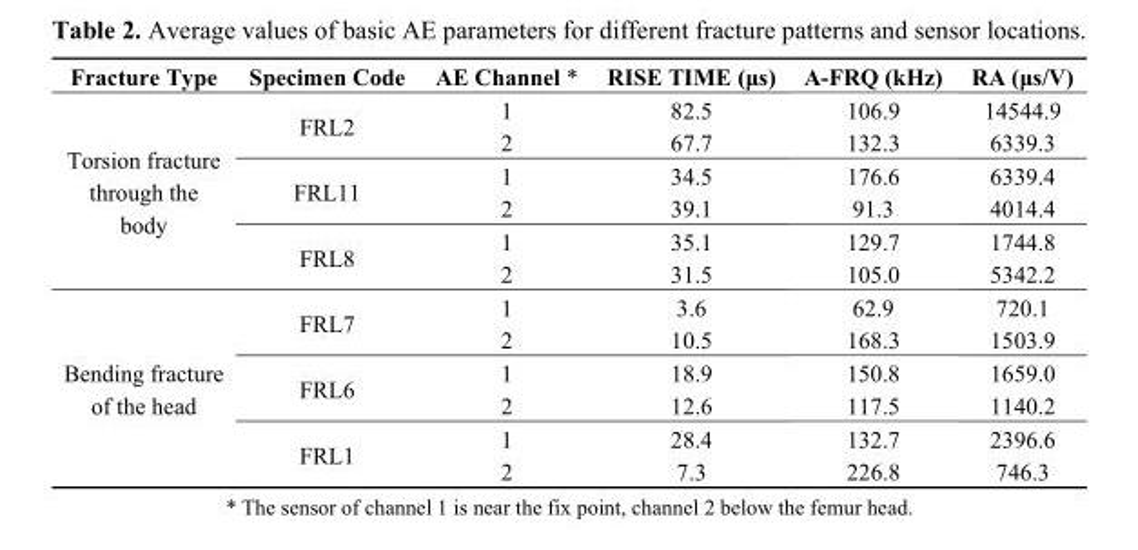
<table><thead><tr><td>Fracture Type</td><td>Specimen Code</td><td>AE Channel *</td><td>RISE TIME (μs)</td><td>A-FRQ (kHz)</td><td>RA (μs/V)</td></tr></thead><tbody><tr><td rowspan="6">Torsion fracture through the body</td><td rowspan="2">FRL2</td><td>1</td><td>82.5</td><td>106.9</td><td>14544.9</td></tr><tr><td>2</td><td>67.7</td><td>132.3</td><td>6339.3</td></tr><tr><td rowspan="2">FRL11</td><td>1</td><td>34.5</td><td>176.6</td><td>6339.4</td></tr><tr><td>2</td><td>39.1</td><td>91.3</td><td>4014.4</td></tr><tr><td rowspan="2">FRL8</td><td>1</td><td>35.1</td><td>129.7</td><td>1744.8</td></tr><tr><td>2</td><td>31.5</td><td>105.0</td><td>5342.2</td></tr><tr><td rowspan="6">Bending fracture of the head</td><td rowspan="2">FRL7</td><td>1</td><td>3.6</td><td>62.9</td><td>720.1</td></tr><tr><td>2</td><td>10.5</td><td>168.3</td><td>1503.9</td></tr><tr><td rowspan="2">FRL6</td><td>1</td><td>18.9</td><td>150.8</td><td>1659.0</td></tr><tr><td>2</td><td>12.6</td><td>117.5</td><td>1140.2</td></tr><tr><td rowspan="2">FRL1</td><td>1</td><td>28.4</td><td>132.7</td><td>2396.6</td></tr><tr><td>2</td><td>7.3</td><td>226.8</td><td>746.3</td></tr></tbody></table>